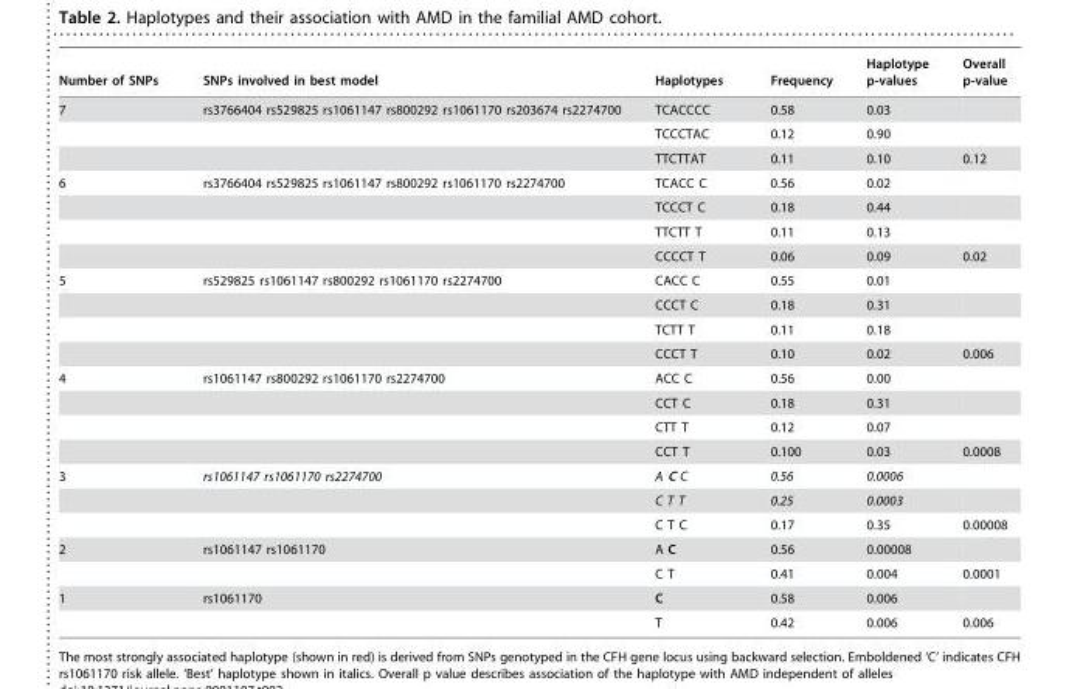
<table><thead><tr><td>Number of SNPs</td><td>SNPs involved in best model</td><td>Haplotypes</td><td>Frequency</td><td>Haplotype p-values</td><td>Overall p-value</td></tr></thead><tbody><tr><td rowspan="3">7</td><td>rs3766404 rs529825 rs1061147 rs800292 rs1061170 rs203674 rs2274700</td><td>TCACCCC</td><td>0.58</td><td>0.03</td><td></td></tr><tr><td></td><td>TCCCTAC</td><td>0.12</td><td>0.90</td><td></td></tr><tr><td></td><td>TTCTTAT</td><td>0.11</td><td>0.10</td><td>0.12</td></tr><tr><td rowspan="4">6</td><td>rs3766404 rs529825 rs1061147 rs800292 rs1061170 rs2274700</td><td>TCACC C</td><td>0.56</td><td>0.02</td><td></td></tr><tr><td></td><td>TCCCT C</td><td>0.18</td><td>0.44</td><td></td></tr><tr><td></td><td>TTCTT T</td><td>0.11</td><td>0.13</td><td></td></tr><tr><td></td><td>CCCCT T</td><td>0.06</td><td>0.09</td><td>0.02</td></tr><tr><td rowspan="4">5</td><td>rs529825 rs1061147 rs800292 rs1061170 rs2274700</td><td>CACC C</td><td>0.55</td><td>0.01</td><td></td></tr><tr><td></td><td>CCCT C</td><td>0.18</td><td>0.31</td><td></td></tr><tr><td></td><td>TCTT T</td><td>0.11</td><td>0.18</td><td></td></tr><tr><td></td><td>CCCT T</td><td>0.10</td><td>0.02</td><td>0.006</td></tr><tr><td rowspan="4">4</td><td>rs1061147 rs800292 rs1061170 rs2274700</td><td>ACC C</td><td>0.56</td><td>0.00</td><td></td></tr><tr><td></td><td>CCT C</td><td>0.18</td><td>0.31</td><td></td></tr><tr><td></td><td>CTT T</td><td>0.12</td><td>0.07</td><td></td></tr><tr><td></td><td>CCT T</td><td>0.100</td><td>0.03</td><td>0.0008</td></tr><tr><td rowspan="3">3</td><td>rs1061147 rs1061170 rs2274700</td><td>A C C</td><td>0.56</td><td>0.0006</td><td></td></tr><tr><td></td><td>C T T</td><td>0.25</td><td>0.0003</td><td></td></tr><tr><td></td><td>C T C</td><td>0.17</td><td>0.35</td><td>0.00008</td></tr><tr><td rowspan="2">2</td><td>rs1061147 rs1061170</td><td>A C</td><td>0.56</td><td>0.00008</td><td></td></tr><tr><td></td><td>C T</td><td>0.41</td><td>0.004</td><td>0.0001</td></tr><tr><td rowspan="2">1</td><td>rs1061170</td><td>C</td><td>0.58</td><td>0.006</td><td></td></tr><tr><td></td><td>T</td><td>0.42</td><td>0.006</td><td>0.006</td></tr></tbody></table>